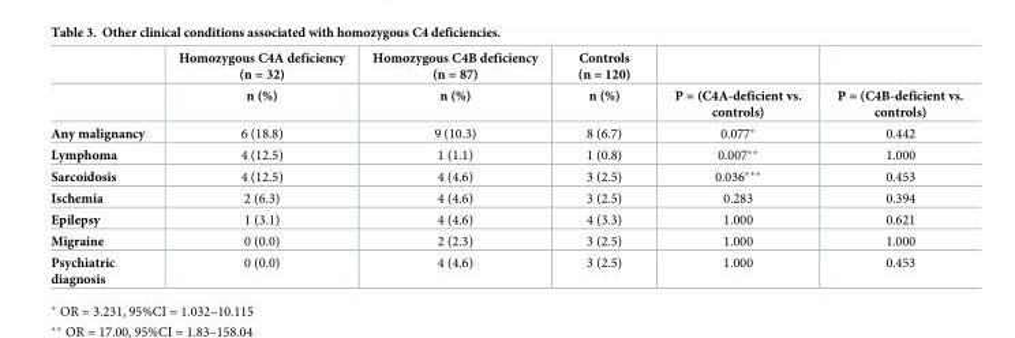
<table><thead><tr><td rowspan="2"></td><td rowspan="2">Homozygous C4A deficiency (n = 32) n (%)</td><td rowspan="2">Homozygous C4B deficiency (n = 87) n (%)</td><td rowspan="2">Controls (n = 120) n (%)</td><td rowspan="2">P = (C4A-deficient vs. controls)</td><td rowspan="2">P = (C4B-deficient vs. controls)</td></tr><tr></tr></thead><tbody><tr><td>Any malignancy</td><td>6 (18.8)</td><td>9 (10.3)</td><td>8 (6.7)</td><td>0.077*</td><td>0.442</td></tr><tr><td>Lymphoma</td><td>4 (12.5)</td><td>1 (1.1)</td><td>1 (0.8)</td><td>0.007**</td><td>1.000</td></tr><tr><td>Sarcoidosis</td><td>4 (12.5)</td><td>4 (4.6)</td><td>3 (2.5)</td><td>0.036***</td><td>0.453</td></tr><tr><td>Ischemia</td><td>2 (6.3)</td><td>4 (4.6)</td><td>3 (2.5)</td><td>0.283</td><td>0.394</td></tr><tr><td>Epilepsy</td><td>1 (3.1)</td><td>4 (4.6)</td><td>4 (3.3)</td><td>1.000</td><td>0.621</td></tr><tr><td>Migraine</td><td>0 (0.0)</td><td>2 (2.3)</td><td>3 (2.5)</td><td>1.000</td><td>1.000</td></tr><tr><td>Psychiatric diagnosis</td><td>0 (0.0)</td><td>4 (4.6)</td><td>3 (2.5)</td><td>1.000</td><td>0.453</td></tr></tbody></table>